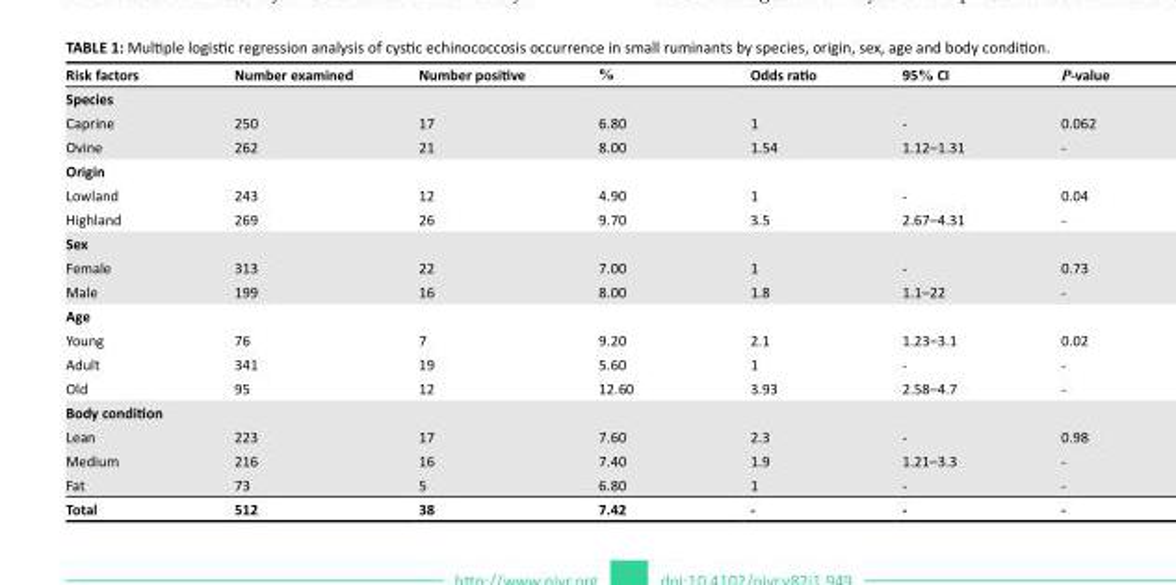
<table><thead><tr><td>Risk factors</td><td>Number examined</td><td>Number positive</td><td>%</td><td>Odds ratio</td><td>95% CI</td><td>P-value</td></tr></thead><tbody><tr><td colspan="7">Species</td></tr><tr><td>Caprine</td><td>250</td><td>17</td><td>6.80</td><td>1</td><td>-</td><td>0.062</td></tr><tr><td>Ovine</td><td>262</td><td>21</td><td>8.00</td><td>1.54</td><td>1.12–1.31</td><td>-</td></tr><tr><td colspan="7">Origin</td></tr><tr><td>Lowland</td><td>243</td><td>12</td><td>4.90</td><td>1</td><td>-</td><td>0.04</td></tr><tr><td>Highland</td><td>269</td><td>26</td><td>9.70</td><td>3.5</td><td>2.67–4.31</td><td>-</td></tr><tr><td colspan="7">Sex</td></tr><tr><td>Female</td><td>313</td><td>22</td><td>7.00</td><td>1</td><td>-</td><td>0.73</td></tr><tr><td>Male</td><td>199</td><td>16</td><td>8.00</td><td>1.8</td><td>1.1–22</td><td>-</td></tr><tr><td colspan="7">Age</td></tr><tr><td>Young</td><td>76</td><td>7</td><td>9.20</td><td>2.1</td><td>1.23–3.1</td><td>0.02</td></tr><tr><td>Adult</td><td>341</td><td>19</td><td>5.60</td><td>1</td><td>-</td><td>-</td></tr><tr><td>Old</td><td>95</td><td>12</td><td>12.60</td><td>3.93</td><td>2.58–4.7</td><td>-</td></tr><tr><td colspan="7">Body condition</td></tr><tr><td>Lean</td><td>223</td><td>17</td><td>7.60</td><td>2.3</td><td>-</td><td>0.98</td></tr><tr><td>Medium</td><td>216</td><td>16</td><td>7.40</td><td>1.9</td><td>1.21–3.3</td><td>-</td></tr><tr><td>Fat</td><td>73</td><td>5</td><td>6.80</td><td>1</td><td>-</td><td>-</td></tr><tr><td>Total</td><td>512</td><td>38</td><td>7.42</td><td>-</td><td>-</td><td>-</td></tr></tbody></table>